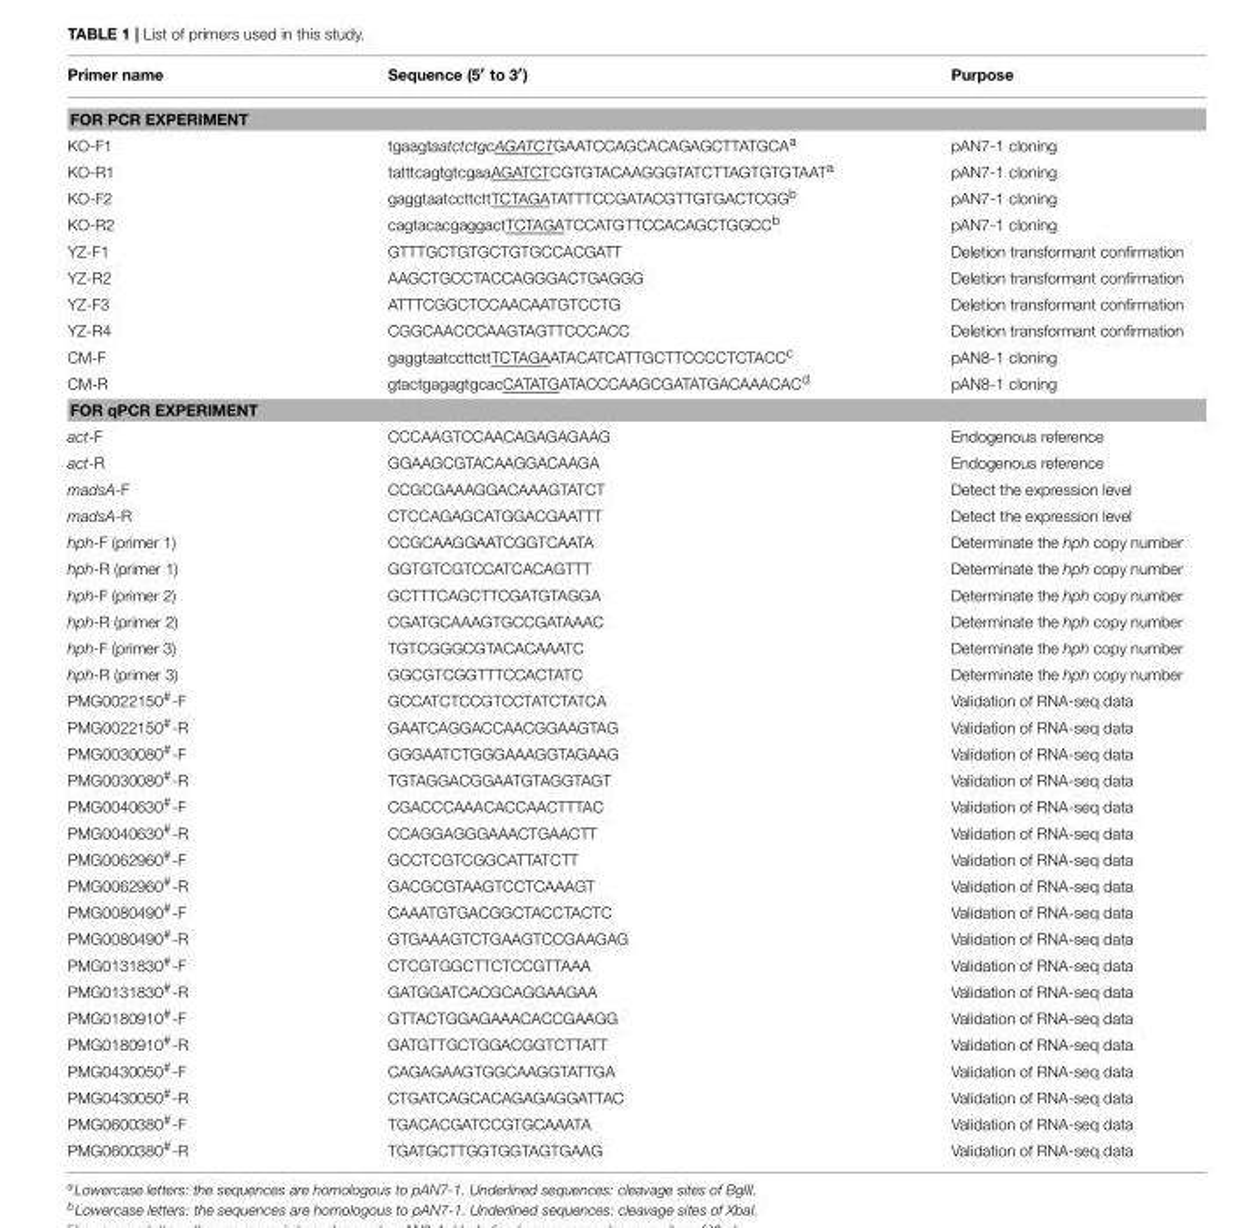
<table><thead><tr><td>Primer name</td><td>Sequence (5′ to 3′)</td><td>Purpose</td></tr></thead><tbody><tr><td colspan="3">FOR PCR EXPERIMENT</td></tr><tr><td>KO-F1</td><td>tgaagtaatctctgcAGATCTGAATCCAGCACAGAGCTTATGCA<sup>a</sup></td><td>pAN7-1 cloning</td></tr><tr><td>KO-R1</td><td>tatttcagtgtcgaaAGATCTCGTGTACAAGGGTATCTTAGTGTGTAAT<sup>a</sup></td><td>pAN7-1 cloning</td></tr><tr><td>KO-F2</td><td>gaggtaatccttcttTCTAGATATTTCCGATACGTTGTGACTCGG<sup>b</sup></td><td>pAN7-1 cloning</td></tr><tr><td>KO-R2</td><td>cagtacacgaggactTCTAGATCCATGTTCCACAGCTGGCC<sup>b</sup></td><td>pAN7-1 cloning</td></tr><tr><td>YZ-F1</td><td>GTTTGCTGTGCTGTGCCACGATT</td><td>Deletion transformant confirmation</td></tr><tr><td>YZ-R2</td><td>AAGCTGCCTACCAGGGACTGAGGG</td><td>Deletion transformant confirmation</td></tr><tr><td>YZ-F3</td><td>ATTTCGGCTCCAACAATGTCCTG</td><td>Deletion transformant confirmation</td></tr><tr><td>YZ-R4</td><td>CGGCAACCCAAGTAGTTCCCACC</td><td>Deletion transformant confirmation</td></tr><tr><td>CM-F</td><td>gaggtaatccttcttTCTAGAATACATCATTGCTTCCCCTCTACC<sup>c</sup></td><td>pAN8-1 cloning</td></tr><tr><td>CM-R</td><td>gtactgagagtgcacCATATGATACCCAAGCGATATGACAAACAC<sup>d</sup></td><td>pAN8-1 cloning</td></tr><tr><td colspan="3">FOR qPCR EXPERIMENT</td></tr><tr><td>act-F</td><td>CCCAAGTCCAACAGAGAGAAG</td><td>Endogenous reference</td></tr><tr><td>act-R</td><td>GGAAGCGTACAAGGACAAGA</td><td>Endogenous reference</td></tr><tr><td>madsA-F</td><td>CCGCGAAAGGACAAAGTATCT</td><td>Detect the expression level</td></tr><tr><td>madsA-R</td><td>CTCCAGAGCATGGACGAATTT</td><td>Detect the expression level</td></tr><tr><td>hph-F (primer 1)</td><td>CCGCAAGGAATCGGTCAATA</td><td>Determinate the hph copy number</td></tr><tr><td>hph-R (primer 1)</td><td>GGTGTCGTCCATCACAGTTT</td><td>Determinate the hph copy number</td></tr><tr><td>hph-F (primer 2)</td><td>GCTTTCAGCTTCGATGTAGGA</td><td>Determinate the hph copy number</td></tr><tr><td>hph-R (primer 2)</td><td>CGATGCAAAGTGCCGATAAAC</td><td>Determinate the hph copy number</td></tr><tr><td>hph-F (primer 3)</td><td>TGTCGGGCGTACACAAATC</td><td>Determinate the hph copy number</td></tr><tr><td>hph-R (primer 3)</td><td>GGCGTCGGTTTCCACTATC</td><td>Determinate the hph copy number</td></tr><tr><td>PMG0022150<sup>#</sup>-F</td><td>GCCATCTCCGTCCTATCTATCA</td><td>Validation of RNA-seq data</td></tr><tr><td>PMG0022150<sup>#</sup>-R</td><td>GAATCAGGACCAACGGAAGTAG</td><td>Validation of RNA-seq data</td></tr><tr><td>PMG0030080<sup>#</sup>-F</td><td>GGGAATCTGGGAAAGGTAGAAG</td><td>Validation of RNA-seq data</td></tr><tr><td>PMG0030080<sup>#</sup>-R</td><td>TGTAGGACGGAATGTAGGTAGT</td><td>Validation of RNA-seq data</td></tr><tr><td>PMG0040630<sup>#</sup>-F</td><td>CGACCCAAACACCAACTTTAC</td><td>Validation of RNA-seq data</td></tr><tr><td>PMG0040630<sup>#</sup>-R</td><td>CCAGGAGGGAAACTGAACTT</td><td>Validation of RNA-seq data</td></tr><tr><td>PMG0062960<sup>#</sup>-F</td><td>GCCTCGTCGGCATTATCTT</td><td>Validation of RNA-seq data</td></tr><tr><td>PMG0062960<sup>#</sup>-R</td><td>GACGCGTAAGTCCTCAAAGT</td><td>Validation of RNA-seq data</td></tr><tr><td>PMG0080490<sup>#</sup>-F</td><td>CAAATGTGACGGCTACCTACTC</td><td>Validation of RNA-seq data</td></tr><tr><td>PMG0080490<sup>#</sup>-R</td><td>GTGAAAGTCTGAAGTCCGAAGAG</td><td>Validation of RNA-seq data</td></tr><tr><td>PMG0131830<sup>#</sup>-F</td><td>CTCGTGGCTTCTCCGTTAAA</td><td>Validation of RNA-seq data</td></tr><tr><td>PMG0131830<sup>#</sup>-R</td><td>GATGGATCACGCAGGAAGAA</td><td>Validation of RNA-seq data</td></tr><tr><td>PMG0180910<sup>#</sup>-F</td><td>GTTACTGGAGAAACACCGAAGG</td><td>Validation of RNA-seq data</td></tr><tr><td>PMG0180910<sup>#</sup>-R</td><td>GATGTTGCTGGACGGTCTTATT</td><td>Validation of RNA-seq data</td></tr><tr><td>PMG0430050<sup>#</sup>-F</td><td>CAGAGAAGTGGCAAGGTATTGA</td><td>Validation of RNA-seq data</td></tr><tr><td>PMG0430050<sup>#</sup>-R</td><td>CTGATCAGCACAGAGAGGATTAC</td><td>Validation of RNA-seq data</td></tr><tr><td>PMG0600380<sup>#</sup>-F</td><td>TGACACGATCCGTGCAAATA</td><td>Validation of RNA-seq data</td></tr><tr><td>PMG0600380<sup>#</sup>-R</td><td>TGATGCTTGGTGGTAGTGAAG</td><td>Validation of RNA-seq data</td></tr></tbody></table>